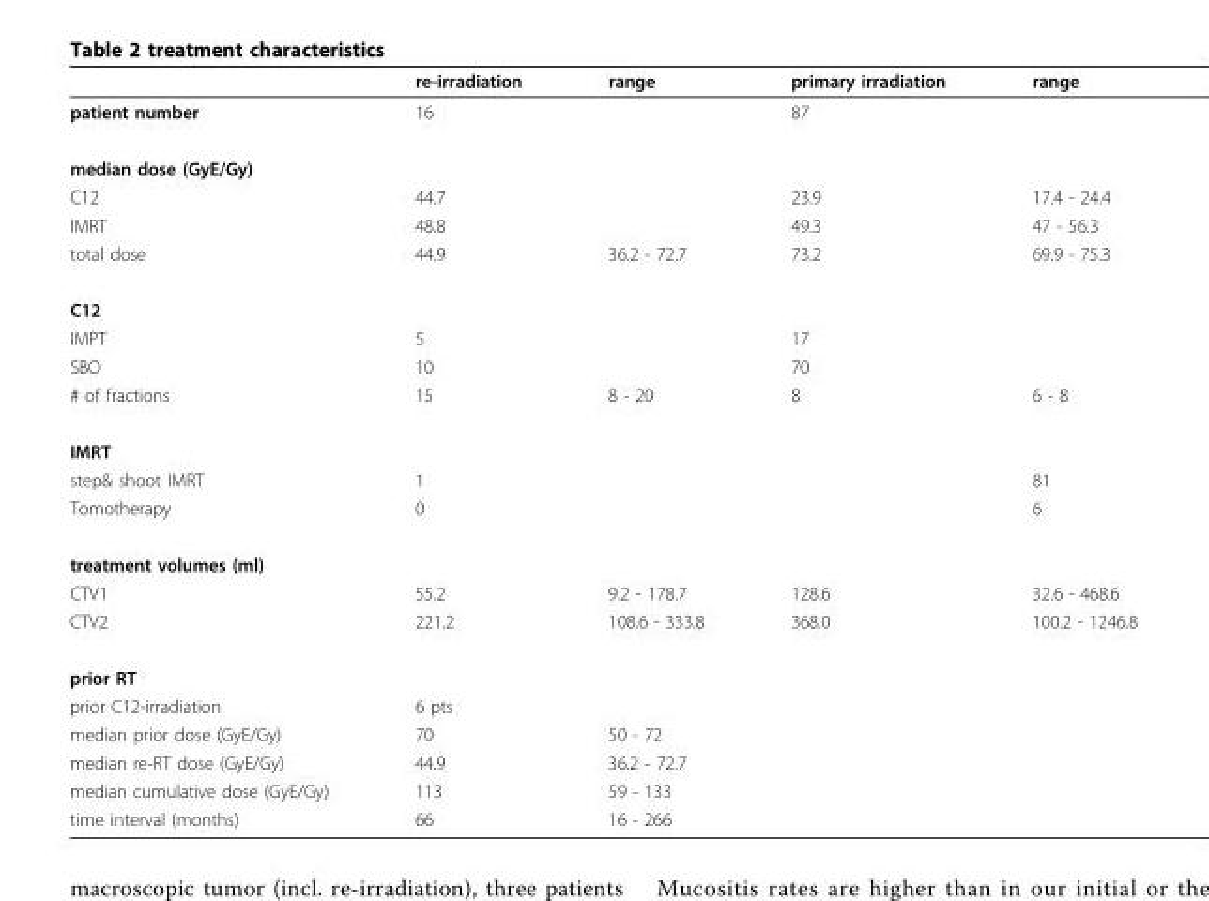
<table><thead><tr><td></td><td>re-irradiation</td><td>range</td><td>primary irradiation</td><td>range</td></tr></thead><tbody><tr><td>patient number</td><td>16</td><td></td><td>87</td><td></td></tr><tr><td colspan="5">median dose (GyE/Gy)</td></tr><tr><td>C12</td><td>44.7</td><td></td><td>23.9</td><td>17.4 - 24.4</td></tr><tr><td>IMRT</td><td>48.8</td><td></td><td>49.3</td><td>47 - 56.3</td></tr><tr><td>total dose</td><td>44.9</td><td>36.2 - 72.7</td><td>73.2</td><td>69.9 - 75.3</td></tr><tr><td colspan="5">C12</td></tr><tr><td>IMPT</td><td>5</td><td></td><td>17</td><td></td></tr><tr><td>SBO</td><td>10</td><td></td><td>70</td><td></td></tr><tr><td># of fractions</td><td>15</td><td>8 - 20</td><td>8</td><td>6 - 8</td></tr><tr><td colspan="5">IMRT</td></tr><tr><td>step&amp; shoot IMRT</td><td>1</td><td></td><td></td><td>81</td></tr><tr><td>Tomotherapy</td><td>0</td><td></td><td></td><td>6</td></tr><tr><td colspan="5">treatment volumes (ml)</td></tr><tr><td>CTV1</td><td>55.2</td><td>9.2 - 178.7</td><td>128.6</td><td>32.6 - 468.6</td></tr><tr><td>CTV2</td><td>221.2</td><td>108.6 - 333.8</td><td>368.0</td><td>100.2 - 1246.8</td></tr><tr><td colspan="5">prior RT</td></tr><tr><td>prior C12-irradiation</td><td>6 pts</td><td></td><td></td><td></td></tr><tr><td>median prior dose (GyE/Gy)</td><td>70</td><td>50 - 72</td><td></td><td></td></tr><tr><td>median re-RT dose (GyE/Gy)</td><td>44.9</td><td>36.2 - 72.7</td><td></td><td></td></tr><tr><td>median cumulative dose (GyE/Gy)</td><td>113</td><td>59 - 133</td><td></td><td></td></tr><tr><td>time interval (months)</td><td>66</td><td>16 - 266</td><td></td><td></td></tr></tbody></table>